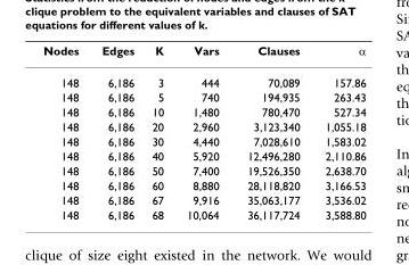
<table><thead><tr><td>Nodes</td><td>Edges</td><td>K</td><td>Vars</td><td>Clauses</td><td>α</td></tr></thead><tbody><tr><td>148</td><td>6,186</td><td>3</td><td>444</td><td>70,089</td><td>157.86</td></tr><tr><td>148</td><td>6,186</td><td>5</td><td>740</td><td>194,935</td><td>263.43</td></tr><tr><td>148</td><td>6,186</td><td>10</td><td>1,480</td><td>780,470</td><td>527.34</td></tr><tr><td>148</td><td>6,186</td><td>20</td><td>2,960</td><td>3,123,340</td><td>1,055.18</td></tr><tr><td>148</td><td>6,186</td><td>30</td><td>4,440</td><td>7,028,610</td><td>1,583.02</td></tr><tr><td>148</td><td>6,186</td><td>40</td><td>5,920</td><td>12,496,280</td><td>2,110.86</td></tr><tr><td>148</td><td>6,186</td><td>50</td><td>7,400</td><td>19,526,350</td><td>2,638.70</td></tr><tr><td>148</td><td>6,186</td><td>60</td><td>8,880</td><td>28,118,820</td><td>3,166.53</td></tr><tr><td>148</td><td>6,186</td><td>67</td><td>9,916</td><td>35,063,177</td><td>3,536.02</td></tr><tr><td>148</td><td>6,186</td><td>68</td><td>10,064</td><td>36,117,724</td><td>3,588.80</td></tr></tbody></table>